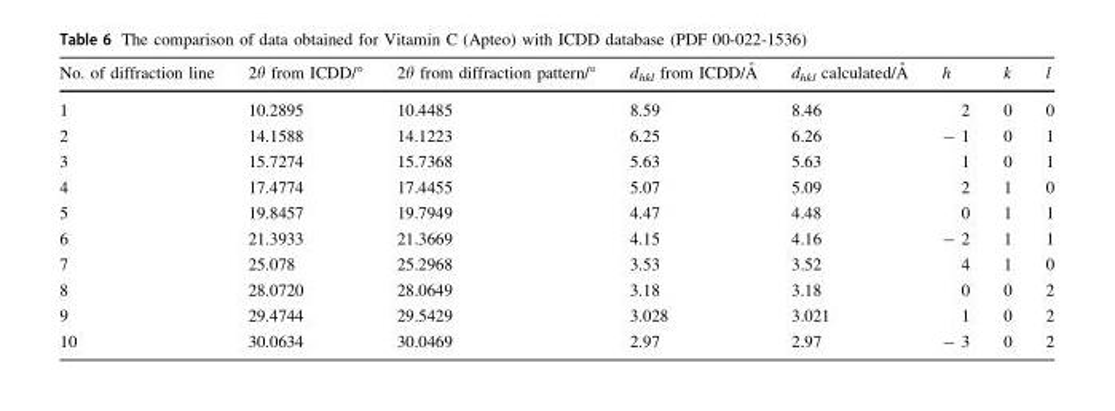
<table><thead><tr><td>No. of diffraction line</td><td>2θ from ICDD/°</td><td>2θ from diffraction pattern/°</td><td>dhkl from ICDD/A˚</td><td>dhkl calculated/A˚</td><td>h</td><td>k</td><td>l</td></tr></thead><tbody><tr><td>1</td><td>10.2895</td><td>10.4485</td><td>8.59</td><td>8.46</td><td>2</td><td>0</td><td>0</td></tr><tr><td>2</td><td>14.1588</td><td>14.1223</td><td>6.25</td><td>6.26</td><td>- 1</td><td>0</td><td>1</td></tr><tr><td>3</td><td>15.7274</td><td>15.7368</td><td>5.63</td><td>5.63</td><td>1</td><td>0</td><td>1</td></tr><tr><td>4</td><td>17.4774</td><td>17.4455</td><td>5.07</td><td>5.09</td><td>2</td><td>1</td><td>0</td></tr><tr><td>5</td><td>19.8457</td><td>19.7949</td><td>4.47</td><td>4.48</td><td>0</td><td>1</td><td>1</td></tr><tr><td>6</td><td>21.3933</td><td>21.3669</td><td>4.15</td><td>4.16</td><td>- 2</td><td>1</td><td>1</td></tr><tr><td>7</td><td>25.078</td><td>25.2968</td><td>3.53</td><td>3.52</td><td>4</td><td>1</td><td>0</td></tr><tr><td>8</td><td>28.0720</td><td>28.0649</td><td>3.18</td><td>3.18</td><td>0</td><td>0</td><td>2</td></tr><tr><td>9</td><td>29.4744</td><td>29.5429</td><td>3.028</td><td>3.021</td><td>1</td><td>0</td><td>2</td></tr><tr><td>10</td><td>30.0634</td><td>30.0469</td><td>2.97</td><td>2.97</td><td>- 3</td><td>0</td><td>2</td></tr></tbody></table>